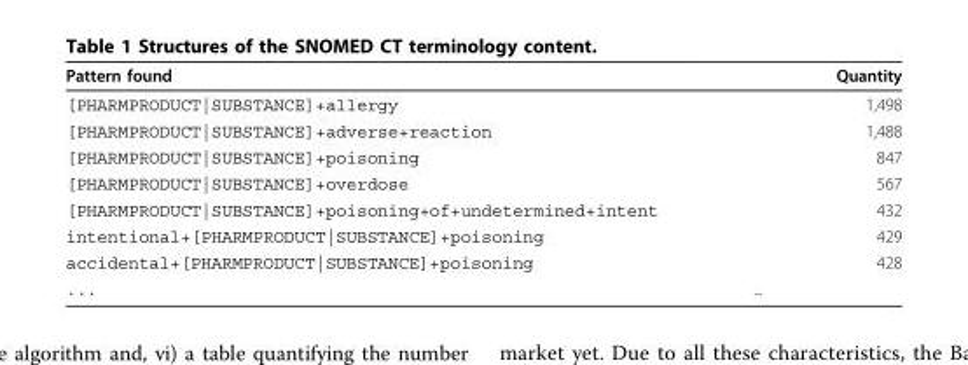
<table><thead><tr><td>Pattern found</td><td>Quantity</td></tr></thead><tbody><tr><td>[PHARMPRODUCT|SUBSTANCE]+allergy</td><td>1,498</td></tr><tr><td>[PHARMPRODUCT|SUBSTANCE]+adverse+reaction</td><td>1,488</td></tr><tr><td>[PHARMPRODUCT|SUBSTANCE]+poisoning</td><td>847</td></tr><tr><td>[PHARMPRODUCT|SUBSTANCE]+overdose</td><td>567</td></tr><tr><td>[PHARMPRODUCT|SUBSTANCE]+poisoning+of+undetermined+intent</td><td>432</td></tr><tr><td>intentional+[PHARMPRODUCT|SUBSTANCE]+poisoning</td><td>429</td></tr><tr><td>accidental+[PHARMPRODUCT|SUBSTANCE]+poisoning</td><td>428</td></tr><tr><td>...</td><td>...</td></tr></tbody></table>